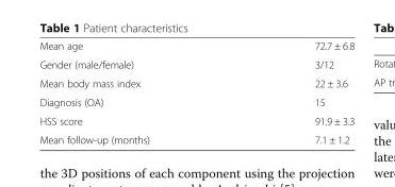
<table><tbody><tr><td>Mean age</td><td>72.7 ± 6.8</td></tr><tr><td>Gender (male/female)</td><td>3/12</td></tr><tr><td>Mean body mass index</td><td>22 ± 3.6</td></tr><tr><td>Diagnosis (OA)</td><td>15</td></tr><tr><td>HSS score</td><td>91.9 ± 3.3</td></tr><tr><td>Mean follow-up (months)</td><td>7.1 ± 1.2</td></tr></tbody></table>